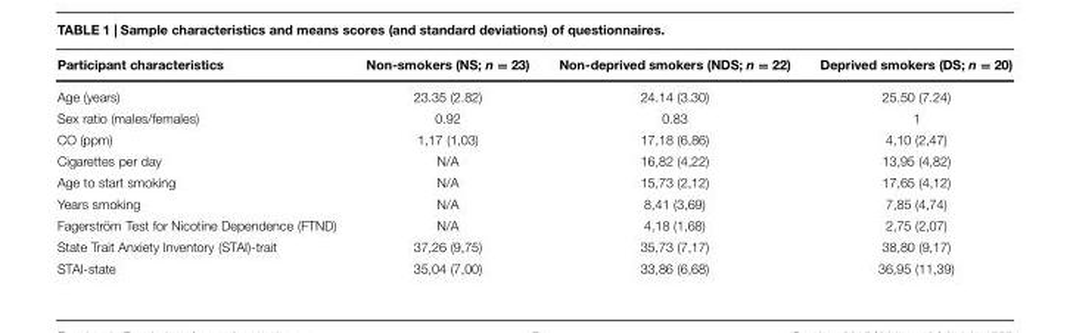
<table><thead><tr><td>Participant characteristics</td><td>Non-smokers (NS; n = 23)</td><td>Non-deprived smokers (NDS; n = 22)</td><td>Deprived smokers (DS; n = 20)</td></tr></thead><tbody><tr><td>Age (years)</td><td>23.35 (2.82)</td><td>24.14 (3.30)</td><td>25.50 (7.24)</td></tr><tr><td>Sex ratio (males/females)</td><td>0.92</td><td>0.83</td><td>1</td></tr><tr><td>CO (ppm)</td><td>1,17 (1,03)</td><td>17,18 (6,86)</td><td>4,10 (2,47)</td></tr><tr><td>Cigarettes per day</td><td>N/A</td><td>16,82 (4,22)</td><td>13,95 (4,82)</td></tr><tr><td>Age to start smoking</td><td>N/A</td><td>15,73 (2,12)</td><td>17,65 (4,12)</td></tr><tr><td>Years smoking</td><td>N/A</td><td>8,41 (3,69)</td><td>7,85 (4,74)</td></tr><tr><td>Fagerström Test for Nicotine Dependence (FTND)</td><td>N/A</td><td>4,18 (1,68)</td><td>2,75 (2,07)</td></tr><tr><td>State Trait Anxiety Inventory (STAI)-trait</td><td>37,26 (9,75)</td><td>35,73 (7,17)</td><td>38,80 (9,17)</td></tr><tr><td>STAI-state</td><td>35,04 (7,00)</td><td>33,86 (6,68)</td><td>36,95 (11,39)</td></tr></tbody></table>